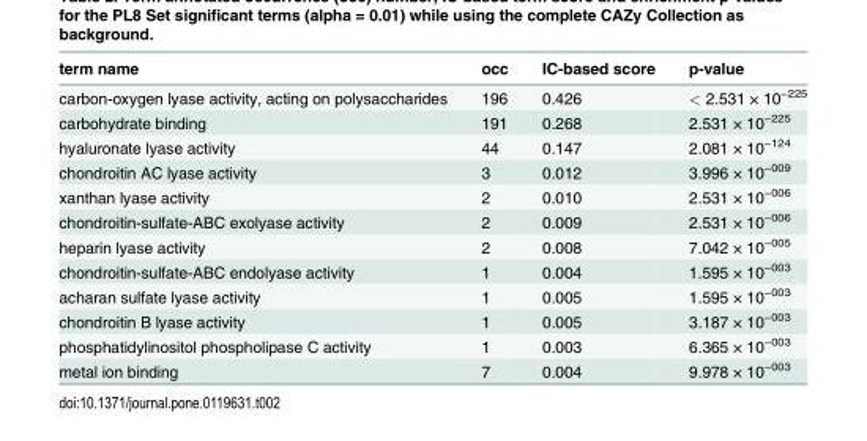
<table><thead><tr><td>term name</td><td>occ</td><td>IC-based score</td><td>p-value</td></tr></thead><tbody><tr><td>carbon-oxygen lyase activity, acting on polysaccharides</td><td>196</td><td>0.426</td><td>&lt; 2.531 × 10<sup>−225</sup></td></tr><tr><td>carbohydrate binding</td><td>191</td><td>0.268</td><td>2.531 × 10<sup>−225</sup></td></tr><tr><td>hyaluronate lyase activity</td><td>44</td><td>0.147</td><td>2.081 × 10<sup>−124</sup></td></tr><tr><td>chondroitin AC lyase activity</td><td>3</td><td>0.012</td><td>3.996 × 10<sup>−009</sup></td></tr><tr><td>xanthan lyase activity</td><td>2</td><td>0.010</td><td>2.531 × 10<sup>−006</sup></td></tr><tr><td>chondroitin-sulfate-ABC exolyase activity</td><td>2</td><td>0.009</td><td>2.531 × 10<sup>−006</sup></td></tr><tr><td>heparin lyase activity</td><td>2</td><td>0.008</td><td>7.042 × 10<sup>−005</sup></td></tr><tr><td>chondroitin-sulfate-ABC endolyase activity</td><td>1</td><td>0.004</td><td>1.595 × 10<sup>−003</sup></td></tr><tr><td>acharan sulfate lyase activity</td><td>1</td><td>0.005</td><td>1.595 × 10<sup>−003</sup></td></tr><tr><td>chondroitin B lyase activity</td><td>1</td><td>0.005</td><td>3.187 × 10<sup>−003</sup></td></tr><tr><td>phosphatidylinositol phospholipase C activity</td><td>1</td><td>0.003</td><td>6.365 × 10<sup>−003</sup></td></tr><tr><td>metal ion binding</td><td>7</td><td>0.004</td><td>9.978 × 10<sup>−003</sup></td></tr></tbody></table>